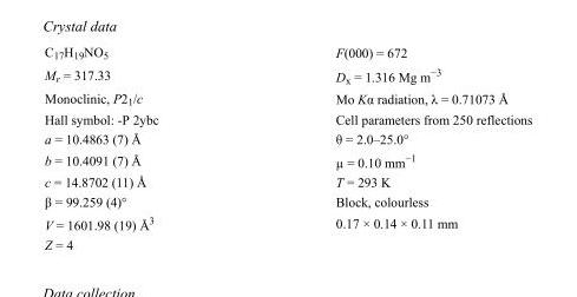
<table><tbody><tr><td>C<sub>17</sub>H<sub>19</sub>NO<sub>5</sub></td><td>F(000) = 672</td></tr><tr><td>M<sub>r</sub> = 317.33</td><td>D<sub>x</sub> = 1.316 Mg m<sup>−3</sup></td></tr><tr><td>Monoclinic, P2<sub>1</sub>/c</td><td>Mo Kα radiation, λ = 0.71073 Å</td></tr><tr><td>Hall symbol: -P 2ybc</td><td>Cell parameters from 250 reflections</td></tr><tr><td>a = 10.4863 (7) Å</td><td>θ = 2.0–25.0°</td></tr><tr><td>b = 10.4091 (7) Å</td><td>µ = 0.10 mm<sup>−1</sup></td></tr><tr><td>c = 14.8702 (11) Å</td><td>T = 293 K</td></tr><tr><td>β = 99.259 (4)°</td><td>Block, colourless</td></tr><tr><td>V = 1601.98 (19) Å<sup>3</sup></td><td>0.17 × 0.14 × 0.11 mm</td></tr><tr><td>Z = 4</td><td></td></tr></tbody></table>